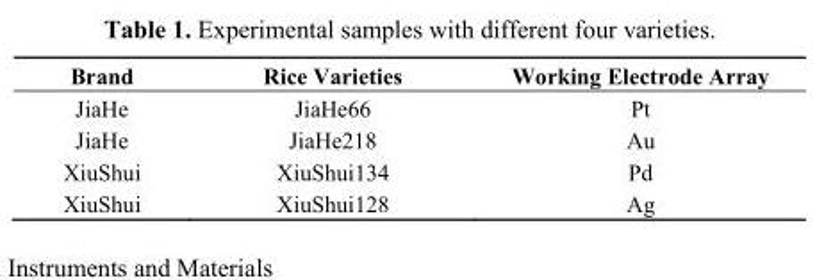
<table><thead><tr><td>Brand</td><td>Rice Varieties</td><td>Working Electrode Array</td></tr></thead><tbody><tr><td>JiaHe</td><td>JiaHe66</td><td>Pt</td></tr><tr><td>JiaHe</td><td>JiaHe218</td><td>Au</td></tr><tr><td>XiuShui</td><td>XiuShui134</td><td>Pd</td></tr><tr><td>XiuShui</td><td>XiuShui128</td><td>Ag</td></tr></tbody></table>